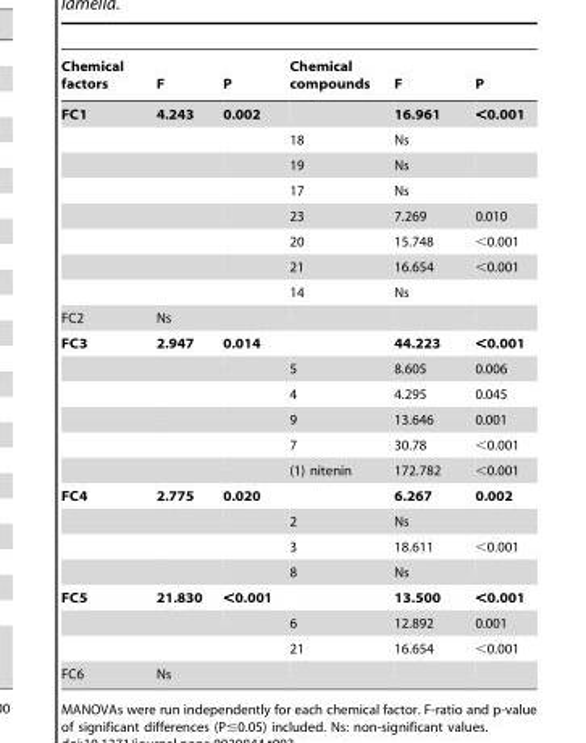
<table><thead><tr><td>Chemical factors</td><td>F</td><td>P</td><td>Chemical compounds</td><td>F</td><td>P</td></tr></thead><tbody><tr><td rowspan="8">FC1</td><td>4.243</td><td>0.002</td><td></td><td>16.961</td><td>&lt;0.001</td></tr><tr><td></td><td></td><td>18</td><td>Ns</td><td></td></tr><tr><td></td><td></td><td>19</td><td>Ns</td><td></td></tr><tr><td></td><td></td><td>17</td><td>Ns</td><td></td></tr><tr><td></td><td></td><td>23</td><td>7.269</td><td>0.010</td></tr><tr><td></td><td></td><td>20</td><td>15.748</td><td>&lt;0.001</td></tr><tr><td></td><td></td><td>21</td><td>16.654</td><td>&lt;0.001</td></tr><tr><td></td><td></td><td>14</td><td colspan="2">Ns</td></tr><tr><td>FC2</td><td colspan="2">Ns</td><td></td><td></td><td></td></tr><tr><td rowspan="6">FC3</td><td>2.947</td><td>0.014</td><td></td><td>44.223</td><td>&lt;0.001</td></tr><tr><td></td><td></td><td>5</td><td>8.605</td><td>0.006</td></tr><tr><td></td><td></td><td>4</td><td>4.295</td><td>0.045</td></tr><tr><td></td><td></td><td>9</td><td>13.646</td><td>0.001</td></tr><tr><td></td><td></td><td>7</td><td>30.78</td><td>&lt;0.001</td></tr><tr><td></td><td></td><td>(1) nitenin</td><td>172.782</td><td>&lt;0.001</td></tr><tr><td rowspan="4">FC4</td><td>2.775</td><td>0.020</td><td></td><td>6.267</td><td>0.002</td></tr><tr><td></td><td></td><td>2</td><td colspan="2">Ns</td></tr><tr><td></td><td></td><td>3</td><td>18.611</td><td>&lt;0.001</td></tr><tr><td></td><td></td><td>8</td><td>Ns</td><td></td></tr><tr><td rowspan="3">FC5</td><td>21.830</td><td>&lt;0.001</td><td></td><td>13.500</td><td>&lt;0.001</td></tr><tr><td></td><td></td><td>6</td><td>12.892</td><td>0.001</td></tr><tr><td></td><td></td><td>21</td><td>16.654</td><td>&lt;0.001</td></tr><tr><td>FC6</td><td colspan="2">Ns</td><td></td><td></td><td></td></tr></tbody></table>